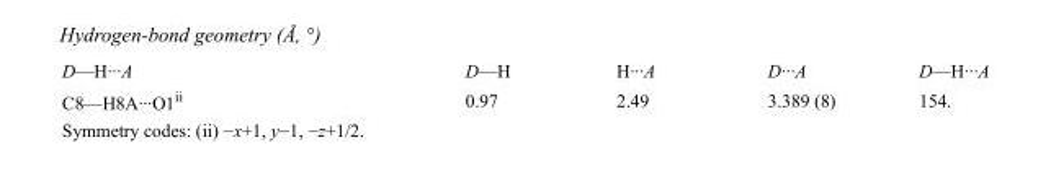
<table><tbody><tr><td>D—H···A</td><td>D—H</td><td>H···A</td><td>D···A</td><td>D—H···A</td></tr><tr><td>C8—H8A···O1<sup>ii</sup></td><td>0.97</td><td>2.49</td><td>3.389 (8)</td><td>154.</td></tr></tbody></table>